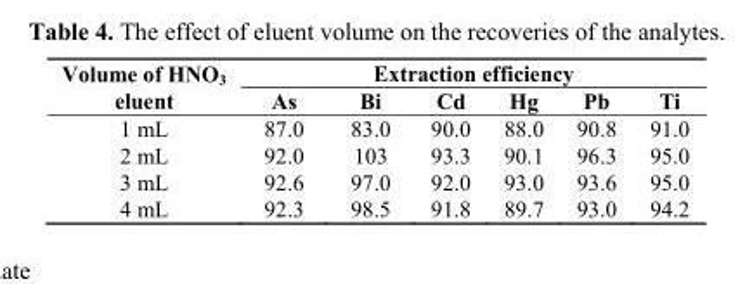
<table><thead><tr><td rowspan="2">Volume of HNO<sub>3</sub> eluent</td><td colspan="6">Extraction efficiency</td></tr><tr><td>As</td><td>Bi</td><td>Cd</td><td>Hg</td><td>Pb</td><td>Ti</td></tr></thead><tbody><tr><td>1 mL</td><td>87.0</td><td>83.0</td><td>90.0</td><td>88.0</td><td>90.8</td><td>91.0</td></tr><tr><td>2 mL</td><td>92.0</td><td>103</td><td>93.3</td><td>90.1</td><td>96.3</td><td>95.0</td></tr><tr><td>3 mL</td><td>92.6</td><td>97.0</td><td>92.0</td><td>93.0</td><td>93.6</td><td>95.0</td></tr><tr><td>4 mL</td><td>92.3</td><td>98.5</td><td>91.8</td><td>89.7</td><td>93.0</td><td>94.2</td></tr></tbody></table>